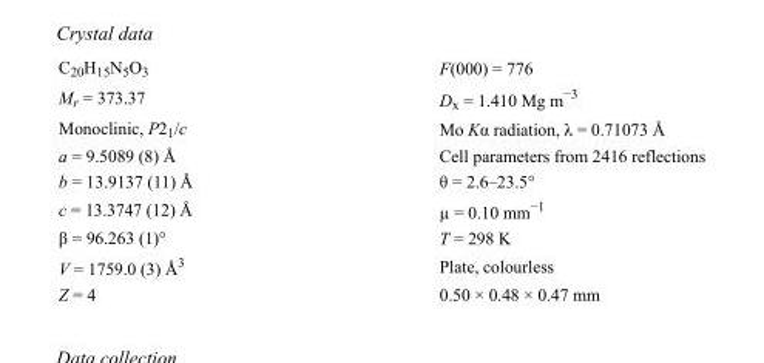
<table><tbody><tr><td>C<sub>20</sub>H<sub>15</sub>N<sub>5</sub>O<sub>3</sub></td><td>F(000) = 776</td></tr><tr><td>M<sub>r</sub> = 373.37</td><td>D<sub>x</sub> = 1.410 Mg m<sup>−3</sup></td></tr><tr><td>Monoclinic, P2<sub>1</sub>/c</td><td>Mo Kα radiation, λ = 0.71073 Å</td></tr><tr><td>a = 9.5089 (8) Å</td><td>Cell parameters from 2416 reflections</td></tr><tr><td>b = 13.9137 (11) Å</td><td>θ = 2.6–23.5°</td></tr><tr><td>c = 13.3747 (12) Å</td><td>µ = 0.10 mm<sup>−1</sup></td></tr><tr><td>β = 96.263 (1)°</td><td>T = 298 K</td></tr><tr><td>V = 1759.0 (3) Å<sup>3</sup></td><td>Plate, colourless</td></tr><tr><td>Z = 4</td><td>0.50 × 0.48 × 0.47 mm</td></tr></tbody></table>